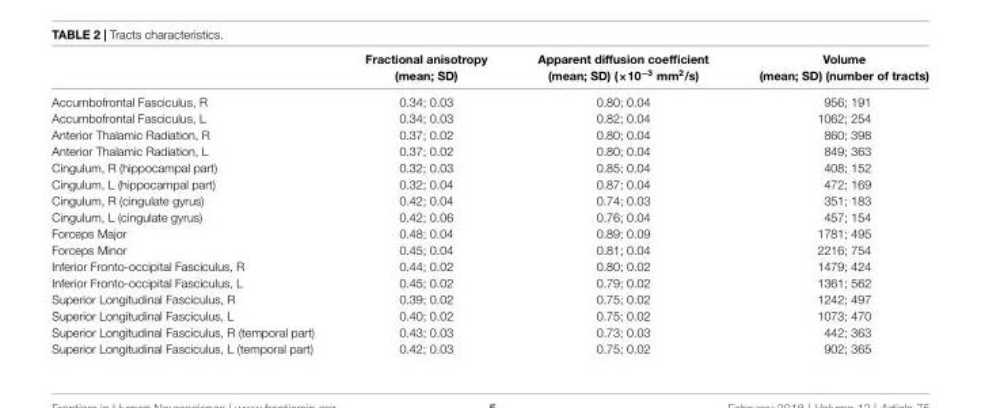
<table><thead><tr><td></td><td>Fractional anisotropy (mean; SD)</td><td>Apparent diffusion coefficient (mean; SD) (×10<sup>−3</sup> mm<sup>2</sup>/s)</td><td>Volume (mean; SD) (number of tracts)</td></tr></thead><tbody><tr><td>Accumbofrontal Fasciculus, R</td><td>0.34; 0.03</td><td>0.80; 0.04</td><td>956; 191</td></tr><tr><td>Accumbofrontal Fasciculus, L</td><td>0.34; 0.03</td><td>0.82; 0.04</td><td>1062; 254</td></tr><tr><td>Anterior Thalamic Radiation, R</td><td>0.37; 0.02</td><td>0.80; 0.04</td><td>860; 398</td></tr><tr><td>Anterior Thalamic Radiation, L</td><td>0.37; 0.02</td><td>0.80; 0.04</td><td>849; 363</td></tr><tr><td>Cingulum, R (hippocampal part)</td><td>0.32; 0.03</td><td>0.85; 0.04</td><td>408; 152</td></tr><tr><td>Cingulum, L (hippocampal part)</td><td>0.32; 0.04</td><td>0.87; 0.04</td><td>472; 169</td></tr><tr><td>Cingulum, R (cingulate gyrus)</td><td>0.42; 0.04</td><td>0.74; 0.03</td><td>351; 183</td></tr><tr><td>Cingulum, L (cingulate gyrus)</td><td>0.42; 0.06</td><td>0.76; 0.04</td><td>457; 154</td></tr><tr><td>Forceps Major</td><td>0.48; 0.04</td><td>0.89; 0.09</td><td>1781; 495</td></tr><tr><td>Forceps Minor</td><td>0.45; 0.04</td><td>0.81; 0.04</td><td>2216; 754</td></tr><tr><td>Inferior Fronto-occipital Fasciculus, R</td><td>0.44; 0.02</td><td>0.80; 0.02</td><td>1479; 424</td></tr><tr><td>Inferior Fronto-occipital Fasciculus, L</td><td>0.45; 0.02</td><td>0.79; 0.02</td><td>1361; 562</td></tr><tr><td>Superior Longitudinal Fasciculus, R</td><td>0.39; 0.02</td><td>0.75; 0.02</td><td>1242; 497</td></tr><tr><td>Superior Longitudinal Fasciculus, L</td><td>0.40; 0.02</td><td>0.75; 0.02</td><td>1073; 470</td></tr><tr><td>Superior Longitudinal Fasciculus, R (temporal part)</td><td>0.43; 0.03</td><td>0.73; 0.03</td><td>442; 363</td></tr><tr><td>Superior Longitudinal Fasciculus, L (temporal part)</td><td>0.42; 0.03</td><td>0.75; 0.02</td><td>902; 365</td></tr></tbody></table>